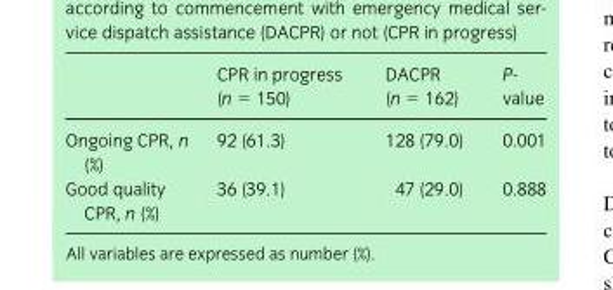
<table><thead><tr><td></td><td>CPR in progress (n = 150)</td><td>DACPR (n = 162)</td><td>P- value</td></tr></thead><tbody><tr><td>Ongoing CPR, n (%)</td><td>92 (61.3)</td><td>128 (79.0)</td><td>0.001</td></tr><tr><td>Good quality CPR, n (%)</td><td>36 (39.1)</td><td>47 (29.0)</td><td>0.888</td></tr></tbody></table>